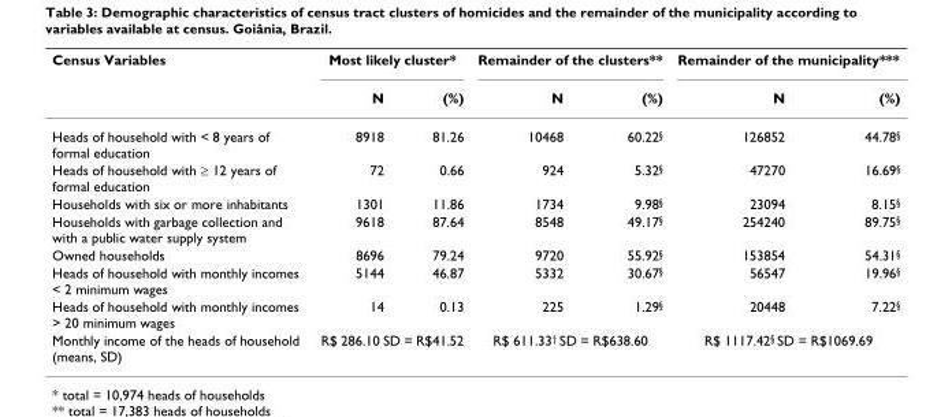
<table><thead><tr><td rowspan="2">Census Variables</td><td colspan="2">Most likely cluster*</td><td colspan="2">Remainder of the clusters**</td><td colspan="2">Remainder of the municipality***</td></tr><tr><td>N</td><td>(%)</td><td>N</td><td>(%)</td><td>N</td><td>(%)</td></tr></thead><tbody><tr><td>Heads of household with &lt; 8 years of formal education</td><td>8918</td><td>81.26</td><td>10468</td><td>60.22<sup>§</sup></td><td>126852</td><td>44.78<sup>§</sup></td></tr><tr><td>Heads of household with ≥ 12 years of formal education</td><td>72</td><td>0.66</td><td>924</td><td>5.32<sup>§</sup></td><td>47270</td><td>16.69<sup>§</sup></td></tr><tr><td>Households with six or more inhabitants</td><td>1301</td><td>11.86</td><td>1734</td><td>9.98<sup>§</sup></td><td>23094</td><td>8.15<sup>§</sup></td></tr><tr><td>Households with garbage collection and with a public water supply system</td><td>9618</td><td>87.64</td><td>8548</td><td>49.17<sup>§</sup></td><td>254240</td><td>89.75<sup>§</sup></td></tr><tr><td>Owned households</td><td>8696</td><td>79.24</td><td>9720</td><td>55.92<sup>§</sup></td><td>153854</td><td>54.31<sup>§</sup></td></tr><tr><td>Heads of household with monthly incomes &lt; 2 minimum wages</td><td>5144</td><td>46.87</td><td>5332</td><td>30.67<sup>§</sup></td><td>56547</td><td>19.96<sup>§</sup></td></tr><tr><td>Heads of household with monthly incomes &gt; 20 minimum wages</td><td>14</td><td>0.13</td><td>225</td><td>1.29<sup>§</sup></td><td>20448</td><td>7.22<sup>§</sup></td></tr><tr><td>Monthly income of the heads of household (means, SD)</td><td colspan="2">R$ 286.10 SD = R$41.52</td><td colspan="2">R$ 611.33<sup>†</sup> SD = R$638.60</td><td colspan="2">R$ 1117.42<sup>§</sup> SD = R$1069.69</td></tr></tbody></table>